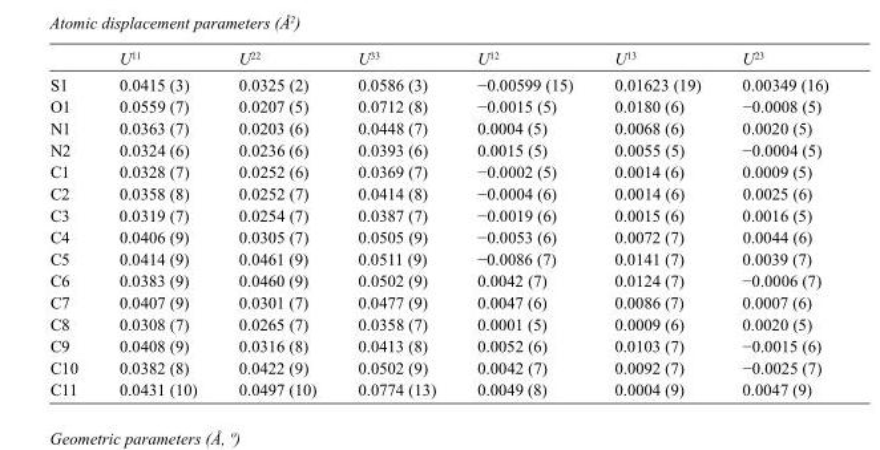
<table><thead><tr><td></td><td>U<sup>11</sup></td><td>U<sup>22</sup></td><td>U<sup>33</sup></td><td>U<sup>12</sup></td><td>U<sup>13</sup></td><td>U<sup>23</sup></td></tr></thead><tbody><tr><td>S1</td><td>0.0415 (3)</td><td>0.0325 (2)</td><td>0.0586 (3)</td><td>−0.00599 (15)</td><td>0.01623 (19)</td><td>0.00349 (16)</td></tr><tr><td>O1</td><td>0.0559 (7)</td><td>0.0207 (5)</td><td>0.0712 (8)</td><td>−0.0015 (5)</td><td>0.0180 (6)</td><td>−0.0008 (5)</td></tr><tr><td>N1</td><td>0.0363 (7)</td><td>0.0203 (6)</td><td>0.0448 (7)</td><td>0.0004 (5)</td><td>0.0068 (6)</td><td>0.0020 (5)</td></tr><tr><td>N2</td><td>0.0324 (6)</td><td>0.0236 (6)</td><td>0.0393 (6)</td><td>0.0015 (5)</td><td>0.0055 (5)</td><td>−0.0004 (5)</td></tr><tr><td>C1</td><td>0.0328 (7)</td><td>0.0252 (6)</td><td>0.0369 (7)</td><td>−0.0002 (5)</td><td>0.0014 (6)</td><td>0.0009 (5)</td></tr><tr><td>C2</td><td>0.0358 (8)</td><td>0.0252 (7)</td><td>0.0414 (8)</td><td>−0.0004 (6)</td><td>0.0014 (6)</td><td>0.0025 (6)</td></tr><tr><td>C3</td><td>0.0319 (7)</td><td>0.0254 (7)</td><td>0.0387 (7)</td><td>−0.0019 (6)</td><td>0.0015 (6)</td><td>0.0016 (5)</td></tr><tr><td>C4</td><td>0.0406 (9)</td><td>0.0305 (7)</td><td>0.0505 (9)</td><td>−0.0053 (6)</td><td>0.0072 (7)</td><td>0.0044 (6)</td></tr><tr><td>C5</td><td>0.0414 (9)</td><td>0.0461 (9)</td><td>0.0511 (9)</td><td>−0.0086 (7)</td><td>0.0141 (7)</td><td>0.0039 (7)</td></tr><tr><td>C6</td><td>0.0383 (9)</td><td>0.0460 (9)</td><td>0.0502 (9)</td><td>0.0042 (7)</td><td>0.0124 (7)</td><td>−0.0006 (7)</td></tr><tr><td>C7</td><td>0.0407 (9)</td><td>0.0301 (7)</td><td>0.0477 (9)</td><td>0.0047 (6)</td><td>0.0086 (7)</td><td>0.0007 (6)</td></tr><tr><td>C8</td><td>0.0308 (7)</td><td>0.0265 (7)</td><td>0.0358 (7)</td><td>0.0001 (5)</td><td>0.0009 (6)</td><td>0.0020 (5)</td></tr><tr><td>C9</td><td>0.0408 (9)</td><td>0.0316 (8)</td><td>0.0413 (8)</td><td>0.0052 (6)</td><td>0.0103 (7)</td><td>−0.0015 (6)</td></tr><tr><td>C10</td><td>0.0382 (8)</td><td>0.0422 (9)</td><td>0.0502 (9)</td><td>0.0042 (7)</td><td>0.0092 (7)</td><td>−0.0025 (7)</td></tr><tr><td>C11</td><td>0.0431 (10)</td><td>0.0497 (10)</td><td>0.0774 (13)</td><td>0.0049 (8)</td><td>0.0004 (9)</td><td>0.0047 (9)</td></tr></tbody></table>